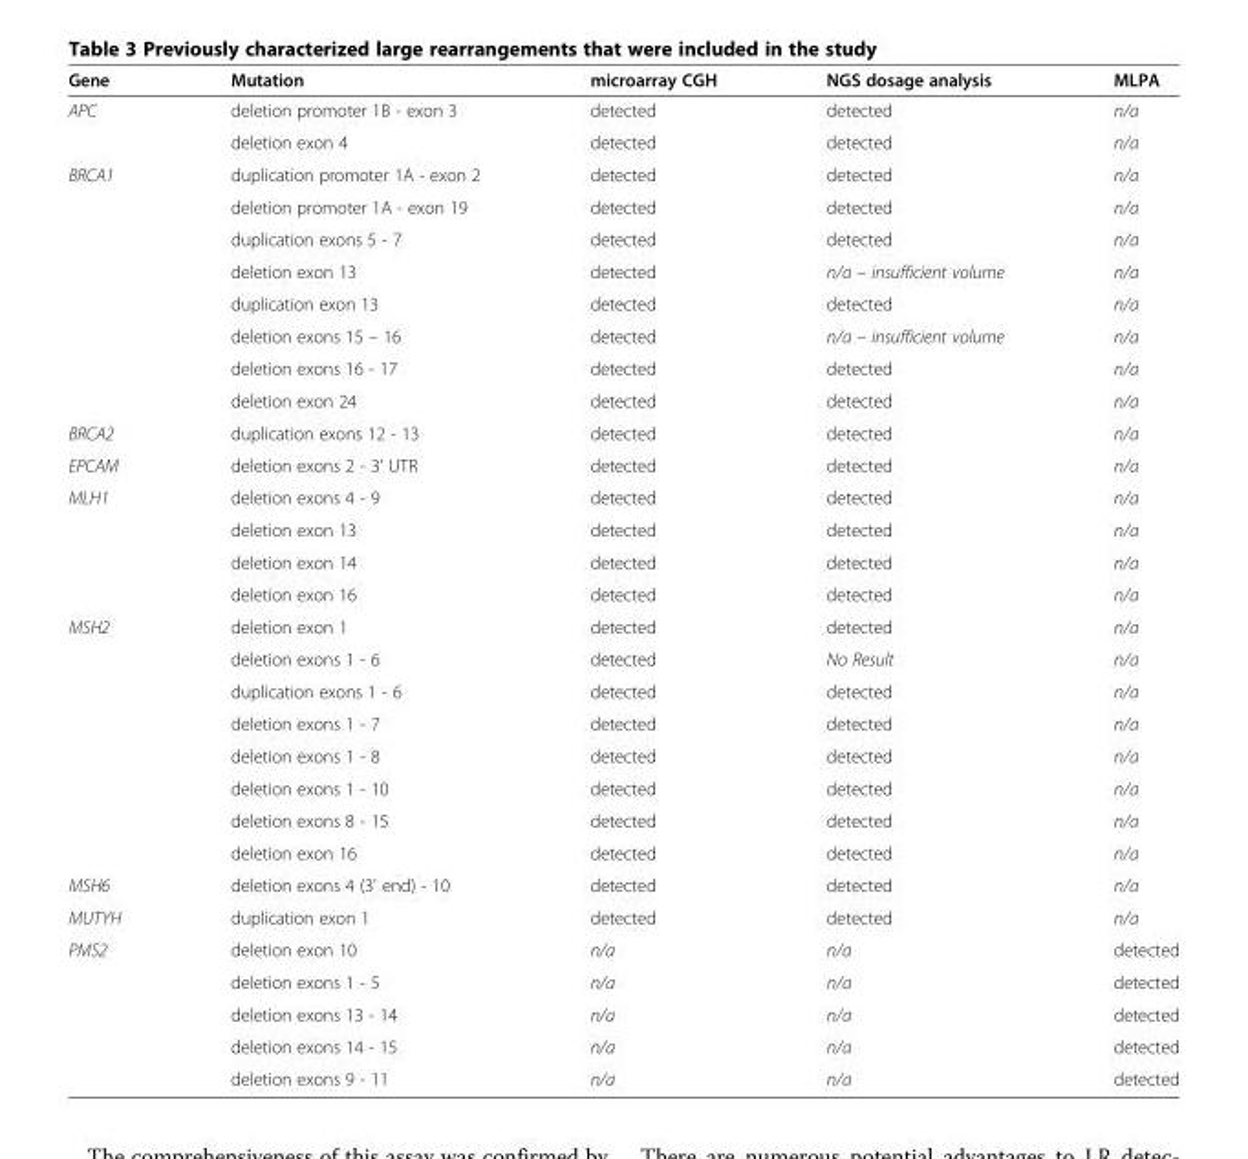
<table><thead><tr><td>Gene</td><td>Mutation</td><td>microarray CGH</td><td>NGS dosage analysis</td><td>MLPA</td></tr></thead><tbody><tr><td rowspan="2">APC</td><td>deletion promoter 1B - exon 3</td><td>detected</td><td>detected</td><td>n/a</td></tr><tr><td>deletion exon 4</td><td>detected</td><td>detected</td><td>n/a</td></tr><tr><td rowspan="8">BRCA1</td><td>duplication promoter 1A - exon 2</td><td>detected</td><td>detected</td><td>n/a</td></tr><tr><td>deletion promoter 1A - exon 19</td><td>detected</td><td>detected</td><td>n/a</td></tr><tr><td>duplication exons 5 - 7</td><td>detected</td><td>detected</td><td>n/a</td></tr><tr><td>deletion exon 13</td><td>detected</td><td>n/a – insufficient volume</td><td>n/a</td></tr><tr><td>duplication exon 13</td><td>detected</td><td>detected</td><td>n/a</td></tr><tr><td>deletion exons 15 – 16</td><td>detected</td><td>n/a – insufficient volume</td><td>n/a</td></tr><tr><td>deletion exons 16 - 17</td><td>detected</td><td>detected</td><td>n/a</td></tr><tr><td>deletion exon 24</td><td>detected</td><td>detected</td><td>n/a</td></tr><tr><td>BRCA2</td><td>duplication exons 12 - 13</td><td>detected</td><td>detected</td><td>n/a</td></tr><tr><td>EPCAM</td><td>deletion exons 2 - 3&#x27; UTR</td><td>detected</td><td>detected</td><td>n/a</td></tr><tr><td rowspan="4">MLH1</td><td>deletion exons 4 - 9</td><td>detected</td><td>detected</td><td>n/a</td></tr><tr><td>deletion exon 13</td><td>detected</td><td>detected</td><td>n/a</td></tr><tr><td>deletion exon 14</td><td>detected</td><td>detected</td><td>n/a</td></tr><tr><td>deletion exon 16</td><td>detected</td><td>detected</td><td>n/a</td></tr><tr><td rowspan="8">MSH2</td><td>deletion exon 1</td><td>detected</td><td>detected</td><td>n/a</td></tr><tr><td>deletion exons 1 - 6</td><td>detected</td><td>No Result</td><td>n/a</td></tr><tr><td>duplication exons 1 - 6</td><td>detected</td><td>detected</td><td>n/a</td></tr><tr><td>deletion exons 1 - 7</td><td>detected</td><td>detected</td><td>n/a</td></tr><tr><td>deletion exons 1 - 8</td><td>detected</td><td>detected</td><td>n/a</td></tr><tr><td>deletion exons 1 - 10</td><td>detected</td><td>detected</td><td>n/a</td></tr><tr><td>deletion exons 8 - 15</td><td>detected</td><td>detected</td><td>n/a</td></tr><tr><td>deletion exon 16</td><td>detected</td><td>detected</td><td>n/a</td></tr><tr><td>MSH6</td><td>deletion exons 4 (3&#x27; end) - 10</td><td>detected</td><td>detected</td><td>n/a</td></tr><tr><td>MUTYH</td><td>duplication exon 1</td><td>detected</td><td>detected</td><td>n/a</td></tr><tr><td rowspan="5">PMS2</td><td>deletion exon 10</td><td>n/a</td><td>n/a</td><td>detected</td></tr><tr><td>deletion exons 1 - 5</td><td>n/a</td><td>n/a</td><td>detected</td></tr><tr><td>deletion exons 13 - 14</td><td>n/a</td><td>n/a</td><td>detected</td></tr><tr><td>deletion exons 14 - 15</td><td>n/a</td><td>n/a</td><td>detected</td></tr><tr><td>deletion exons 9 - 11</td><td>n/a</td><td>n/a</td><td>detected</td></tr></tbody></table>